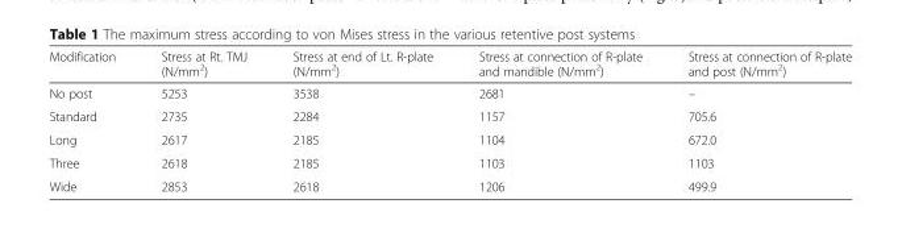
<table><thead><tr><td>Modification</td><td>Stress at Rt. TMJ (N/mm<sup>2</sup>)</td><td>Stress at end of Lt. R-plate (N/mm<sup>2</sup>)</td><td>Stress at connection of R-plate and mandible (N/mm<sup>2</sup>)</td><td>Stress at connection of R-plate and post (N/mm<sup>2</sup>)</td></tr></thead><tbody><tr><td>No post</td><td>5253</td><td>3538</td><td>2681</td><td>–</td></tr><tr><td>Standard</td><td>2735</td><td>2284</td><td>1157</td><td>705.6</td></tr><tr><td>Long</td><td>2617</td><td>2185</td><td>1104</td><td>672.0</td></tr><tr><td>Three</td><td>2618</td><td>2185</td><td>1103</td><td>1103</td></tr><tr><td>Wide</td><td>2853</td><td>2618</td><td>1206</td><td>499.9</td></tr></tbody></table>